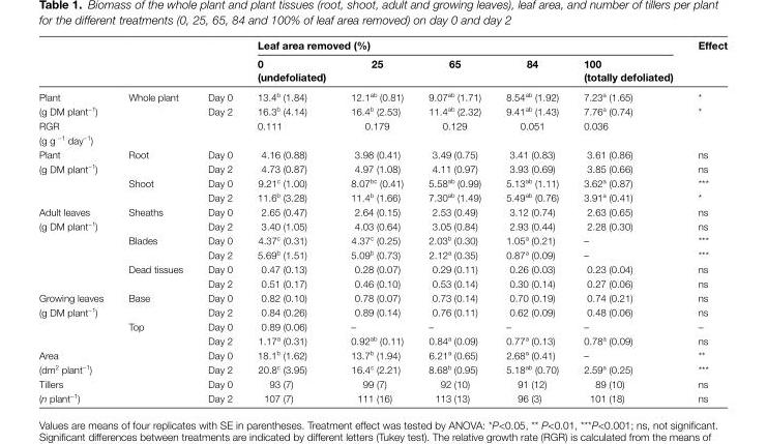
<table><thead><tr><td rowspan="2"></td><td rowspan="2"></td><td rowspan="2"></td><td colspan="5">Leaf area removed (%)</td><td rowspan="2">Effect</td></tr><tr><td>0 (undefoliated)</td><td>25</td><td>65</td><td>84</td><td>100 (totally defoliated)</td></tr></thead><tbody><tr><td rowspan="2">Plant (g DM plant<sup>−1</sup>)</td><td rowspan="2">Whole plant</td><td>Day 0</td><td>13.4<sup>b</sup> (1.84)</td><td>12.1<sup>ab</sup> (0.81)</td><td>9.07<sup>ab</sup> (1.71)</td><td>8.54<sup>ab</sup> (1.92)</td><td>7.23<sup>a</sup> (1.65)</td><td>*</td></tr><tr><td>Day 2</td><td>16.3<sup>b</sup> (4.14)</td><td>16.4<sup>b</sup> (2.53)</td><td>11.4<sup>ab</sup> (2.32)</td><td>9.41<sup>ab</sup> (1.43)</td><td>7.76<sup>a</sup> (0.74)</td><td>*</td></tr><tr><td>RGR (g g <sup>−1</sup> day<sup>−1</sup>)</td><td></td><td></td><td>0.111</td><td>0.179</td><td>0.129</td><td>0.051</td><td>0.036</td><td></td></tr><tr><td rowspan="4">Plant (g DM plant<sup>−1</sup>)</td><td rowspan="2">Root</td><td>Day 0</td><td>4.16 (0.88)</td><td>3.98 (0.41)</td><td>3.49 (0.75)</td><td>3.41 (0.83)</td><td>3.61 (0.86)</td><td>ns</td></tr><tr><td>Day 2</td><td>4.73 (0.87)</td><td>4.97 (1.08)</td><td>4.11 (0.97)</td><td>3.93 (0.69)</td><td>3.85 (0.66)</td><td>ns</td></tr><tr><td rowspan="2">Shoot</td><td>Day 0</td><td>9.21<sup>c</sup> (1.00)</td><td>8.07<sup>bc</sup> (0.41)</td><td>5.58<sup>ab</sup> (0.99)</td><td>5.13<sup>ab</sup> (1.11)</td><td>3.62<sup>a</sup> (0.87)</td><td>***</td></tr><tr><td>Day 2</td><td>11.6<sup>b</sup> (3.28)</td><td>11.4<sup>b</sup> (1.66)</td><td>7.30<sup>ab</sup> (1.49)</td><td>5.49<sup>ab</sup> (0.76)</td><td>3.91<sup>a</sup> (0.41)</td><td>*</td></tr><tr><td rowspan="6">Adult leaves (g DM plant<sup>−1</sup>)</td><td rowspan="2">Sheaths</td><td>Day 0</td><td>2.65 (0.47)</td><td>2.64 (0.15)</td><td>2.53 (0.49)</td><td>3.12 (0.74)</td><td>2.63 (0.65)</td><td>ns</td></tr><tr><td>Day 2</td><td>3.40 (1.05)</td><td>4.03 (0.64)</td><td>3.05 (0.84)</td><td>2.93 (0.44)</td><td>2.28 (0.30)</td><td>ns</td></tr><tr><td rowspan="2">Blades</td><td>Day 0</td><td>4.37<sup>c</sup> (0.31)</td><td>4.37<sup>c</sup> (0.25)</td><td>2.03<sup>b</sup> (0.30)</td><td>1.05<sup>a</sup> (0.21)</td><td>–</td><td>***</td></tr><tr><td>Day 2</td><td>5.69<sup>b</sup> (1.51)</td><td>5.09<sup>b</sup> (0.73)</td><td>2.12<sup>a</sup> (0.35)</td><td>0.87<sup>a</sup> (0.09)</td><td>–</td><td>***</td></tr><tr><td rowspan="2">Dead tissues</td><td>Day 0</td><td>0.47 (0.13)</td><td>0.28 (0.07)</td><td>0.29 (0.11)</td><td>0.26 (0.03)</td><td>0.23 (0.04)</td><td>ns</td></tr><tr><td>Day 2</td><td>0.51 (0.17)</td><td>0.46 (0.10)</td><td>0.53 (0.14)</td><td>0.30 (0.14)</td><td>0.27 (0.06)</td><td>ns</td></tr><tr><td rowspan="4">Growing leaves (g DM plant<sup>−1</sup>)</td><td rowspan="2">Base</td><td>Day 0</td><td>0.82 (0.10)</td><td>0.78 (0.07)</td><td>0.73 (0.14)</td><td>0.70 (0.19)</td><td>0.74 (0.21)</td><td>ns</td></tr><tr><td>Day 2</td><td>0.84 (0.26)</td><td>0.89 (0.14)</td><td>0.76 (0.11)</td><td>0.62 (0.09)</td><td>0.48 (0.06)</td><td>ns</td></tr><tr><td rowspan="2">Top</td><td>Day 0</td><td>0.89 (0.06)</td><td>–</td><td>–</td><td>–</td><td>–</td><td>–</td></tr><tr><td>Day 2</td><td>1.17<sup>a</sup> (0.31)</td><td>0.92<sup>ab</sup> (0.11)</td><td>0.84<sup>a</sup> (0.09)</td><td>0.77<sup>a</sup> (0.13)</td><td>0.78<sup>a</sup> (0.09)</td><td>ns</td></tr><tr><td rowspan="2">Area (dm<sup>2</sup> plant<sup>−1</sup>)</td><td></td><td>Day 0</td><td>18.1<sup>b</sup> (1.62)</td><td>13.7<sup>b</sup> (1.94)</td><td>6.21<sup>a</sup> (0.65)</td><td>2.68<sup>a</sup> (0.41)</td><td>–</td><td>**</td></tr><tr><td></td><td>Day 2</td><td>20.8<sup>c</sup> (3.95)</td><td>16.4<sup>c</sup> (2.21)</td><td>8.68<sup>b</sup> (0.95)</td><td>5.18<sup>ab</sup> (0.70)</td><td>2.59<sup>a</sup> (0.25)</td><td>***</td></tr><tr><td rowspan="2">Tillers (n plant<sup>−1</sup>)</td><td rowspan="2"></td><td>Day 0</td><td>93 (7)</td><td>99 (7)</td><td>92 (10)</td><td>91 (12)</td><td>89 (10)</td><td>ns</td></tr><tr><td>Day 2</td><td>107 (7)</td><td>111 (16)</td><td>113 (13)</td><td>96 (3)</td><td>101 (18)</td><td>ns</td></tr></tbody></table>